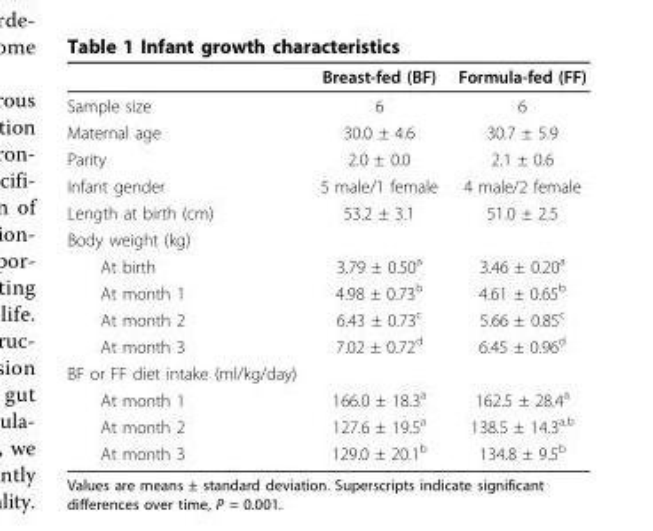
<table><thead><tr><td></td><td>Breast-fed (BF)</td><td>Formula-fed (FF)</td></tr></thead><tbody><tr><td>Sample size</td><td>6</td><td>6</td></tr><tr><td>Maternal age</td><td>30.0 ± 4.6</td><td>30.7 ± 5.9</td></tr><tr><td>Parity</td><td>2.0 ± 0.0</td><td>2.1 ± 0.6</td></tr><tr><td>Infant gender</td><td>5 male/1 female</td><td>4 male/2 female</td></tr><tr><td>Length at birth (cm)</td><td>53.2 ± 3.1</td><td>51.0 ± 2.5</td></tr><tr><td colspan="3">Body weight (kg)</td></tr><tr><td>At birth</td><td>3.79 ± 0.50<sup>a</sup></td><td>3.46 ± 0.20<sup>a</sup></td></tr><tr><td>At month 1</td><td>4.98 ± 0.73<sup>b</sup></td><td>4.61 ± 0.65<sup>b</sup></td></tr><tr><td>At month 2</td><td>6.43 ± 0.73<sup>c</sup></td><td>5.66 ± 0.85<sup>c</sup></td></tr><tr><td>At month 3</td><td>7.02 ± 0.72<sup>d</sup></td><td>6.45 ± 0.96<sup>d</sup></td></tr><tr><td colspan="3">BF or FF diet intake (ml/kg/day)</td></tr><tr><td>At month 1</td><td>166.0 ± 18.3<sup>a</sup></td><td>162.5 ± 28.4<sup>a</sup></td></tr><tr><td>At month 2</td><td>127.6 ± 19.5<sup>a</sup></td><td>138.5 ± 14.3<sup>a,b</sup></td></tr><tr><td>At month 3</td><td>129.0 ± 20.1<sup>b</sup></td><td>134.8 ± 9.5<sup>b</sup></td></tr></tbody></table>